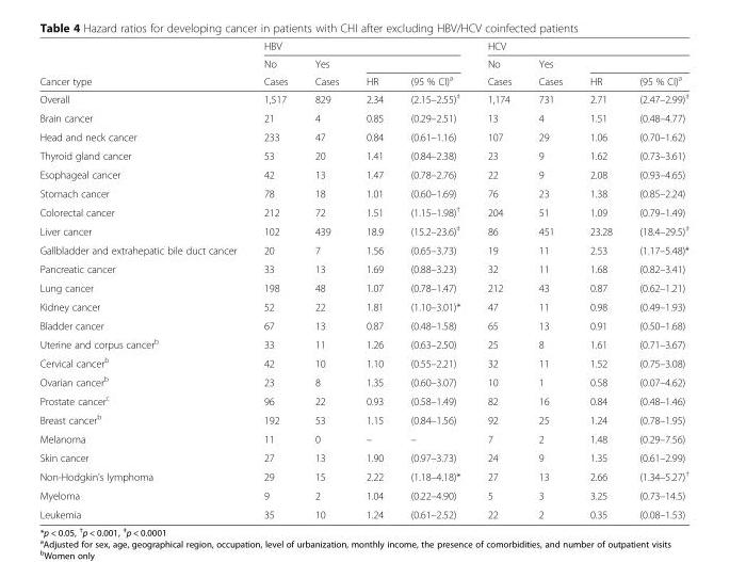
<table><thead><tr><td rowspan="3">Cancer type</td><td colspan="4">HBV</td><td colspan="4">HCV</td></tr><tr><td rowspan="2">No Cases</td><td rowspan="2">Yes Cases</td><td rowspan="2">HR</td><td rowspan="2">(95 % CI)<sup>a</sup></td><td rowspan="2">No Cases</td><td rowspan="2">Yes Cases</td><td rowspan="2">HR</td><td rowspan="2">(95 % CI)<sup>a</sup></td></tr><tr></tr></thead><tbody><tr><td>Overall</td><td>1,517</td><td>829</td><td>2.34</td><td>(2.15–2.55)<sup>‡</sup></td><td>1,174</td><td>731</td><td>2.71</td><td>(2.47–2.99)<sup>‡</sup></td></tr><tr><td>Brain cancer</td><td>21</td><td>4</td><td>0.85</td><td>(0.29–2.51)</td><td>13</td><td>4</td><td>1.51</td><td>(0.48–4.77)</td></tr><tr><td>Head and neck cancer</td><td>233</td><td>47</td><td>0.84</td><td>(0.61–1.16)</td><td>107</td><td>29</td><td>1.06</td><td>(0.70–1.62)</td></tr><tr><td>Thyroid gland cancer</td><td>53</td><td>20</td><td>1.41</td><td>(0.84–2.38)</td><td>23</td><td>9</td><td>1.62</td><td>(0.73–3.61)</td></tr><tr><td>Esophageal cancer</td><td>42</td><td>13</td><td>1.47</td><td>(0.78–2.76)</td><td>22</td><td>9</td><td>2.08</td><td>(0.93–4.65)</td></tr><tr><td>Stomach cancer</td><td>78</td><td>18</td><td>1.01</td><td>(0.60–1.69)</td><td>76</td><td>23</td><td>1.38</td><td>(0.85–2.24)</td></tr><tr><td>Colorectal cancer</td><td>212</td><td>72</td><td>1.51</td><td>(1.15–1.98)<sup>†</sup></td><td>204</td><td>51</td><td>1.09</td><td>(0.79–1.49)</td></tr><tr><td>Liver cancer</td><td>102</td><td>439</td><td>18.9</td><td>(15.2–23.6)<sup>‡</sup></td><td>86</td><td>451</td><td>23.28</td><td>(18.4–29.5)<sup>‡</sup></td></tr><tr><td>Gallbladder and extrahepatic bile duct cancer</td><td>20</td><td>7</td><td>1.56</td><td>(0.65–3.73)</td><td>19</td><td>11</td><td>2.53</td><td>(1.17–5.48)*</td></tr><tr><td>Pancreatic cancer</td><td>33</td><td>13</td><td>1.69</td><td>(0.88–3.23)</td><td>32</td><td>11</td><td>1.68</td><td>(0.82–3.41)</td></tr><tr><td>Lung cancer</td><td>198</td><td>48</td><td>1.07</td><td>(0.78–1.47)</td><td>212</td><td>43</td><td>0.87</td><td>(0.62–1.21)</td></tr><tr><td>Kidney cancer</td><td>52</td><td>22</td><td>1.81</td><td>(1.10–3.01)*</td><td>47</td><td>11</td><td>0.98</td><td>(0.49–1.93)</td></tr><tr><td>Bladder cancer</td><td>67</td><td>13</td><td>0.87</td><td>(0.48–1.58)</td><td>65</td><td>13</td><td>0.91</td><td>(0.50–1.68)</td></tr><tr><td>Uterine and corpus cancer<sup>b</sup></td><td>33</td><td>11</td><td>1.26</td><td>(0.63–2.50)</td><td>25</td><td>8</td><td>1.61</td><td>(0.71–3.67)</td></tr><tr><td>Cervical cancer<sup>b</sup></td><td>42</td><td>10</td><td>1.10</td><td>(0.55–2.21)</td><td>32</td><td>11</td><td>1.52</td><td>(0.75–3.08)</td></tr><tr><td>Ovarian cancer<sup>b</sup></td><td>23</td><td>8</td><td>1.35</td><td>(0.60–3.07)</td><td>10</td><td>1</td><td>0.58</td><td>(0.07–4.62)</td></tr><tr><td>Prostate cancer<sup>c</sup></td><td>96</td><td>22</td><td>0.93</td><td>(0.58–1.49)</td><td>82</td><td>16</td><td>0.84</td><td>(0.48–1.46)</td></tr><tr><td>Breast cancer<sup>b</sup></td><td>192</td><td>53</td><td>1.15</td><td>(0.84–1.56)</td><td>92</td><td>25</td><td>1.24</td><td>(0.78–1.95)</td></tr><tr><td>Melanoma</td><td>11</td><td>0</td><td>–</td><td>–</td><td>7</td><td>2</td><td>1.48</td><td>(0.29–7.56)</td></tr><tr><td>Skin cancer</td><td>27</td><td>13</td><td>1.90</td><td>(0.97–3.73)</td><td>24</td><td>9</td><td>1.35</td><td>(0.61–2.99)</td></tr><tr><td>Non-Hodgkin’s lymphoma</td><td>29</td><td>15</td><td>2.22</td><td>(1.18–4.18)*</td><td>27</td><td>13</td><td>2.66</td><td>(1.34–5.27)<sup>†</sup></td></tr><tr><td>Myeloma</td><td>9</td><td>2</td><td>1.04</td><td>(0.22–4.90)</td><td>5</td><td>3</td><td>3.25</td><td>(0.73–14.5)</td></tr><tr><td>Leukemia</td><td>35</td><td>10</td><td>1.24</td><td>(0.61–2.52)</td><td>22</td><td>2</td><td>0.35</td><td>(0.08–1.53)</td></tr></tbody></table>